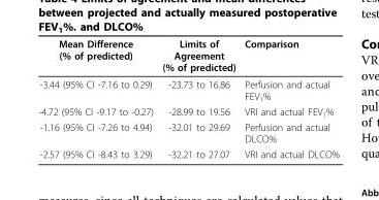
<table><thead><tr><td>Mean Difference (% of predicted)</td><td>Limits of Agreement (% of predicted)</td><td>Comparison</td></tr></thead><tbody><tr><td>-3.44 (95% CI -7.16 to 0.29)</td><td>-23.73 to 16.86</td><td>Perfusion and actual FEV<sub>1</sub>%</td></tr><tr><td>-4.72 (95% CI -9.17 to -0.27)</td><td>-28.99 to 19.56</td><td>VRI and actual FEV<sub>1</sub>%</td></tr><tr><td>-1.16 (95% CI -7.26 to 4.94)</td><td>-32.01 to 29.69</td><td>Perfusion and actual DLCO%</td></tr><tr><td>-2.57 (95% CI -8.43 to 3.29)</td><td>-32.21 to 27.07</td><td>VRI and actual DLCO%</td></tr></tbody></table>